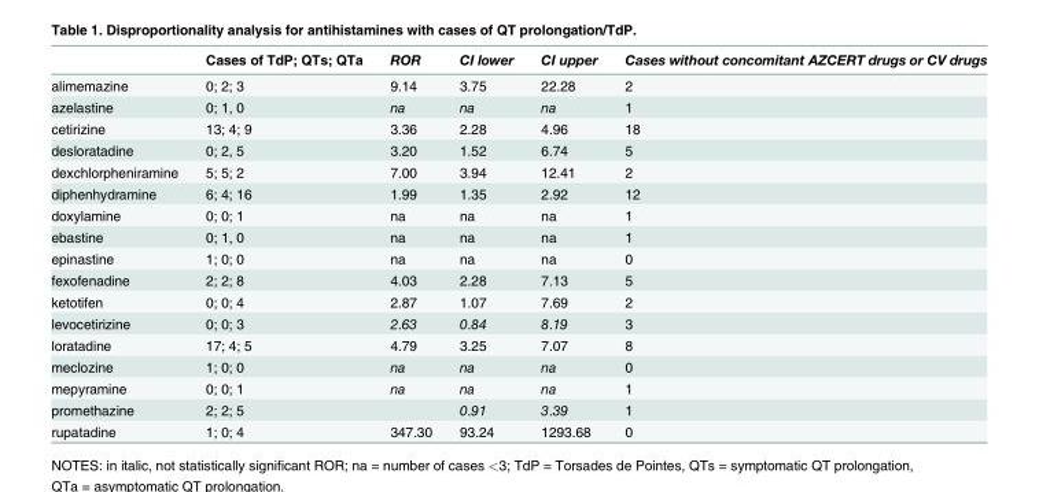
<table><thead><tr><td></td><td>Cases of TdP; QTs; QTa</td><td>ROR</td><td>CI lower</td><td>CI upper</td><td>Cases without concomitant AZCERT drugs or CV drugs</td></tr></thead><tbody><tr><td>alimemazine</td><td>0; 2; 3</td><td>9.14</td><td>3.75</td><td>22.28</td><td>2</td></tr><tr><td>azelastine</td><td>0; 1, 0</td><td>na</td><td>na</td><td>na</td><td>1</td></tr><tr><td>cetirizine</td><td>13; 4; 9</td><td>3.36</td><td>2.28</td><td>4.96</td><td>18</td></tr><tr><td>desloratadine</td><td>0; 2, 5</td><td>3.20</td><td>1.52</td><td>6.74</td><td>5</td></tr><tr><td>dexchlorpheniramine</td><td>5; 5; 2</td><td>7.00</td><td>3.94</td><td>12.41</td><td>2</td></tr><tr><td>diphenhydramine</td><td>6; 4; 16</td><td>1.99</td><td>1.35</td><td>2.92</td><td>12</td></tr><tr><td>doxylamine</td><td>0; 0; 1</td><td>na</td><td>na</td><td>na</td><td>1</td></tr><tr><td>ebastine</td><td>0; 1, 0</td><td>na</td><td>na</td><td>na</td><td>1</td></tr><tr><td>epinastine</td><td>1; 0; 0</td><td>na</td><td>na</td><td>na</td><td>0</td></tr><tr><td>fexofenadine</td><td>2; 2; 8</td><td>4.03</td><td>2.28</td><td>7.13</td><td>5</td></tr><tr><td>ketotifen</td><td>0; 0; 4</td><td>2.87</td><td>1.07</td><td>7.69</td><td>2</td></tr><tr><td>levocetirizine</td><td>0; 0; 3</td><td>2.63</td><td>0.84</td><td>8.19</td><td>3</td></tr><tr><td>loratadine</td><td>17; 4; 5</td><td>4.79</td><td>3.25</td><td>7.07</td><td>8</td></tr><tr><td>meclozine</td><td>1; 0; 0</td><td>na</td><td>na</td><td>na</td><td>0</td></tr><tr><td>mepyramine</td><td>0; 0; 1</td><td>na</td><td>na</td><td>na</td><td>1</td></tr><tr><td>promethazine</td><td>2; 2; 5</td><td></td><td>0.91</td><td>3.39</td><td>1</td></tr><tr><td>rupatadine</td><td>1; 0; 4</td><td>347.30</td><td>93.24</td><td>1293.68</td><td>0</td></tr></tbody></table>